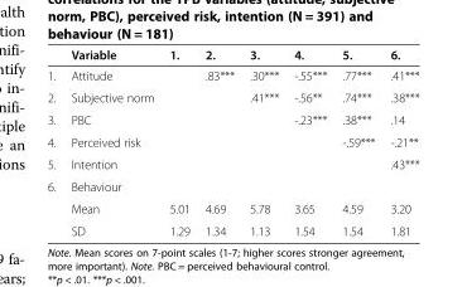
<table><thead><tr><td></td><td>Variable</td><td>1.</td><td>2.</td><td>3.</td><td>4.</td><td>5.</td><td>6.</td></tr></thead><tbody><tr><td>1.</td><td>Attitude</td><td></td><td>.83***</td><td>.30***</td><td>-.55***</td><td>.77***</td><td>.41***</td></tr><tr><td>2.</td><td>Subjective norm</td><td></td><td></td><td>.41***</td><td>-.56**</td><td>.74***</td><td>.38***</td></tr><tr><td>3.</td><td>PBC</td><td></td><td></td><td></td><td>-.23***</td><td>.38***</td><td>.14</td></tr><tr><td>4.</td><td>Perceived risk</td><td></td><td></td><td></td><td></td><td>-.59***</td><td>-.21**</td></tr><tr><td>5.</td><td>Intention</td><td></td><td></td><td></td><td></td><td></td><td>.43***</td></tr><tr><td rowspan="3">6.</td><td>Behaviour</td><td></td><td></td><td></td><td></td><td></td><td></td></tr><tr><td>Mean</td><td>5.01</td><td>4.69</td><td>5.78</td><td>3.65</td><td>4.59</td><td>3.20</td></tr><tr><td>SD</td><td>1.29</td><td>1.34</td><td>1.13</td><td>1.54</td><td>1.54</td><td>1.81</td></tr></tbody></table>